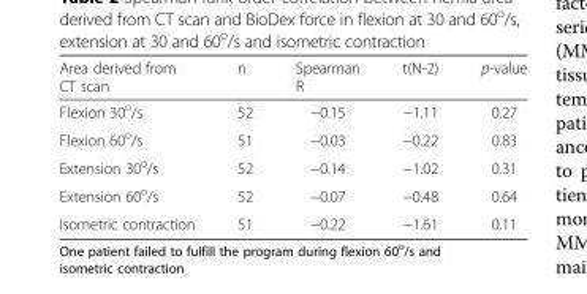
<table><thead><tr><td>Area derived from CT scan</td><td>n</td><td>Spearman R</td><td>t(N-2)</td><td>p-value</td></tr></thead><tbody><tr><td>Flexion 30<sup>o</sup>/s</td><td>52</td><td>−0.15</td><td>−1.11</td><td>0.27</td></tr><tr><td>Flexion 60<sup>o</sup>/s</td><td>51</td><td>−0.03</td><td>−0.22</td><td>0.83</td></tr><tr><td>Extension 30<sup>o</sup>/s</td><td>52</td><td>−0.14</td><td>−1.02</td><td>0.31</td></tr><tr><td>Extension 60<sup>o</sup>/s</td><td>52</td><td>−0.07</td><td>−0.48</td><td>0.64</td></tr><tr><td>Isometric contraction</td><td>51</td><td>−0.22</td><td>−1.61</td><td>0.11</td></tr></tbody></table>